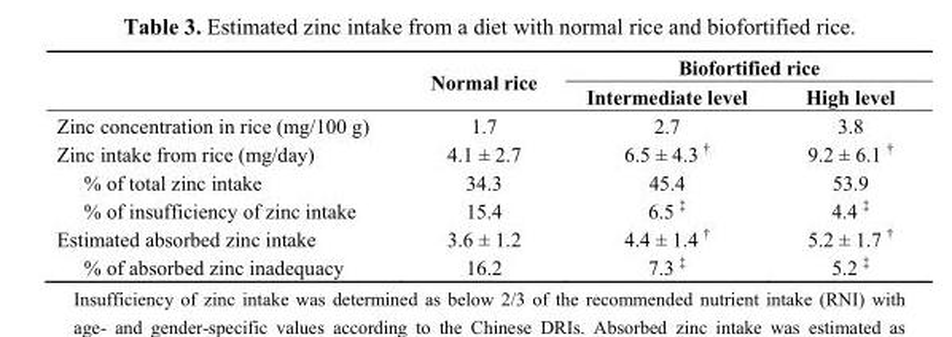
<table><thead><tr><td rowspan="2"></td><td rowspan="2">Normal rice</td><td colspan="2">Biofortified rice</td></tr><tr><td>Intermediate level</td><td>High level</td></tr></thead><tbody><tr><td>Zinc concentration in rice (mg/100 g)</td><td>1.7</td><td>2.7</td><td>3.8</td></tr><tr><td>Zinc intake from rice (mg/day)</td><td>4.1 ± 2.7</td><td>6.5 ± 4.3 <sup>†</sup></td><td>9.2 ± 6.1 <sup>†</sup></td></tr><tr><td>% of total zinc intake</td><td>34.3</td><td>45.4</td><td>53.9</td></tr><tr><td>% of insufficiency of zinc intake</td><td>15.4</td><td>6.5 <sup>‡</sup></td><td>4.4 <sup>‡</sup></td></tr><tr><td>Estimated absorbed zinc intake</td><td>3.6 ± 1.2</td><td>4.4 ± 1.4 <sup>†</sup></td><td>5.2 ± 1.7 <sup>†</sup></td></tr><tr><td>% of absorbed zinc inadequacy</td><td>16.2</td><td>7.3 <sup>‡</sup></td><td>5.2 <sup>‡</sup></td></tr></tbody></table>